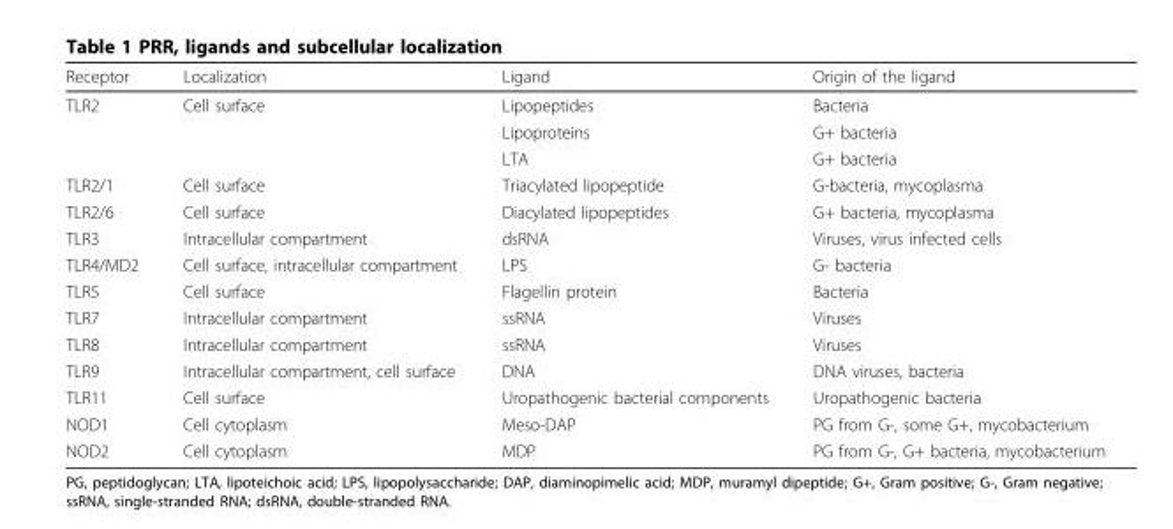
<table><thead><tr><td>Receptor</td><td>Localization</td><td>Ligand</td><td>Origin of the ligand</td></tr></thead><tbody><tr><td rowspan="3">TLR2</td><td>Cell surface</td><td>Lipopeptides</td><td>Bacteria</td></tr><tr><td></td><td>Lipoproteins</td><td>G+ bacteria</td></tr><tr><td></td><td>LTA</td><td>G+ bacteria</td></tr><tr><td>TLR2/1</td><td>Cell surface</td><td>Triacylated lipopeptide</td><td>G-bacteria, mycoplasma</td></tr><tr><td>TLR2/6</td><td>Cell surface</td><td>Diacylated lipopeptides</td><td>G+ bacteria, mycoplasma</td></tr><tr><td>TLR3</td><td>Intracellular compartment</td><td>dsRNA</td><td>Viruses, virus infected cells</td></tr><tr><td>TLR4/MD2</td><td>Cell surface, intracellular compartment</td><td>LPS</td><td>G- bacteria</td></tr><tr><td>TLR5</td><td>Cell surface</td><td>Flagellin protein</td><td>Bacteria</td></tr><tr><td>TLR7</td><td>Intracellular compartment</td><td>ssRNA</td><td>Viruses</td></tr><tr><td>TLR8</td><td>Intracellular compartment</td><td>ssRNA</td><td>Viruses</td></tr><tr><td>TLR9</td><td>Intracellular compartment, cell surface</td><td>DNA</td><td>DNA viruses, bacteria</td></tr><tr><td>TLR11</td><td>Cell surface</td><td>Uropathogenic bacterial components</td><td>Uropathogenic bacteria</td></tr><tr><td>NOD1</td><td>Cell cytoplasm</td><td>Meso-DAP</td><td>PG from G-, some G+, mycobacterium</td></tr><tr><td>NOD2</td><td>Cell cytoplasm</td><td>MDP</td><td>PG from G-, G+ bacteria, mycobacterium</td></tr></tbody></table>